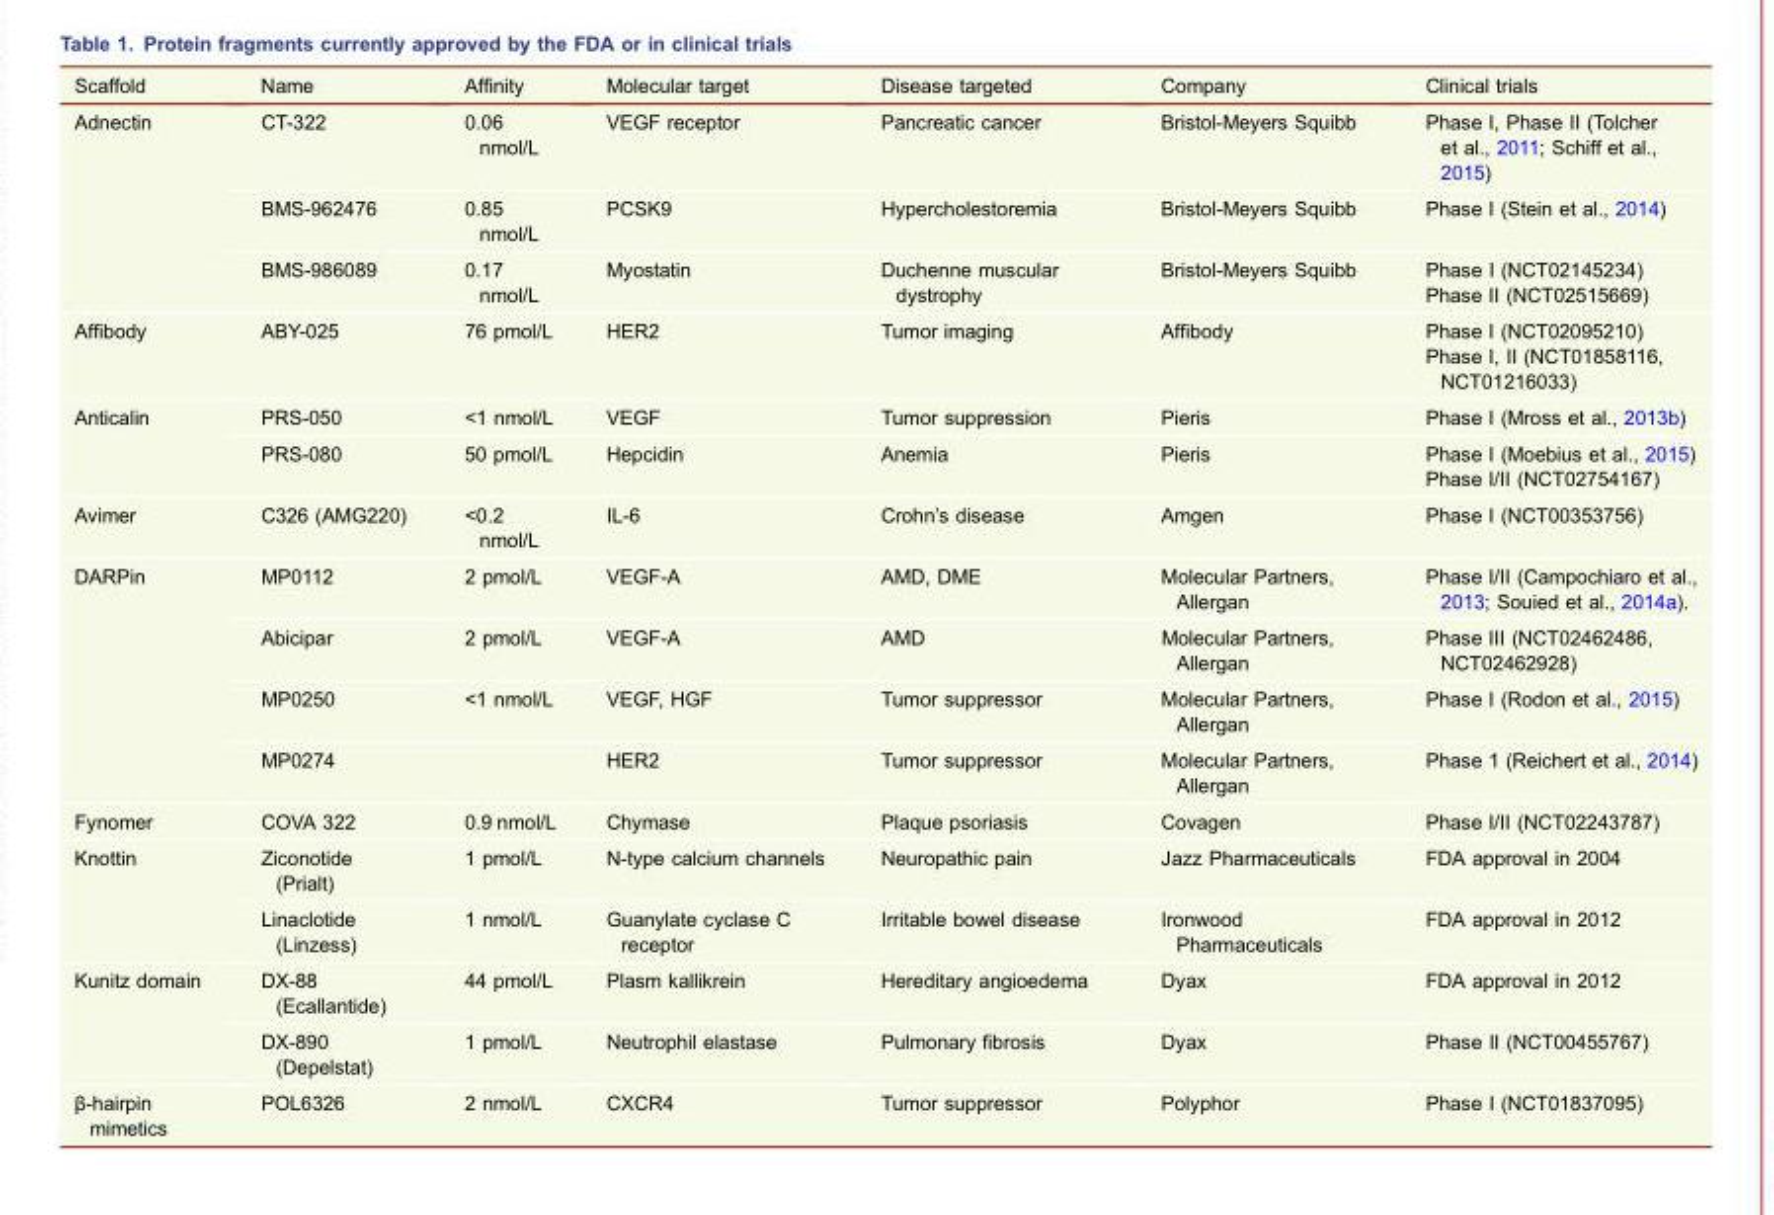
<table><thead><tr><td>Scaffold</td><td>Name</td><td>Affinity</td><td>Molecular target</td><td>Disease targeted</td><td>Company</td><td>Clinical trials</td></tr></thead><tbody><tr><td rowspan="3">Adnectin</td><td>CT-322</td><td>0.06 nmol/L</td><td>VEGF receptor</td><td>Pancreatic cancer</td><td>Bristol-Meyers Squibb</td><td>Phase I, Phase II (Tolcher et al., 2011; Schiff et al., 2015)</td></tr><tr><td>BMS-962476</td><td>0.85 nmol/L</td><td>PCSK9</td><td>Hypercholestoremia</td><td>Bristol-Meyers Squibb</td><td>Phase I (Stein et al., 2014)</td></tr><tr><td>BMS-986089</td><td>0.17 nmol/L</td><td>Myostatin</td><td>Duchenne muscular dystrophy</td><td>Bristol-Meyers Squibb</td><td>Phase I (NCT02145234) Phase II (NCT02515669)</td></tr><tr><td>Affibody</td><td>ABY-025</td><td>76 pmol/L</td><td>HER2</td><td>Tumor imaging</td><td>Affibody</td><td>Phase I (NCT02095210) Phase I, II (NCT01858116, NCT01216033)</td></tr><tr><td rowspan="2">Anticalin</td><td>PRS-050</td><td>&lt;1 nmol/L</td><td>VEGF</td><td>Tumor suppression</td><td>Pieris</td><td>Phase I (Mross et al., 2013b)</td></tr><tr><td>PRS-080</td><td>50 pmol/L</td><td>Hepcidin</td><td>Anemia</td><td>Pieris</td><td>Phase I (Moebius et al., 2015) Phase I/II (NCT02754167)</td></tr><tr><td>Avimer</td><td>C326 (AMG220)</td><td>&lt;0.2 nmol/L</td><td>IL-6</td><td>Crohn’s disease</td><td>Amgen</td><td>Phase I (NCT00353756)</td></tr><tr><td rowspan="4">DARPin</td><td>MP0112</td><td>2 pmol/L</td><td>VEGF-A</td><td>AMD, DME</td><td>Molecular Partners, Allergan</td><td>Phase I/II (Campochiaro et al., 2013; Souied et al., 2014a).</td></tr><tr><td>Abicipar</td><td>2 pmol/L</td><td>VEGF-A</td><td>AMD</td><td>Molecular Partners, Allergan</td><td>Phase III (NCT02462486, NCT02462928)</td></tr><tr><td>MP0250</td><td>&lt;1 nmol/L</td><td>VEGF, HGF</td><td>Tumor suppressor</td><td>Molecular Partners, Allergan</td><td>Phase I (Rodon et al., 2015)</td></tr><tr><td>MP0274</td><td></td><td>HER2</td><td>Tumor suppressor</td><td>Molecular Partners, Allergan</td><td>Phase 1 (Reichert et al., 2014)</td></tr><tr><td>Fynomer</td><td>COVA 322</td><td>0.9 nmol/L</td><td>Chymase</td><td>Plaque psoriasis</td><td>Covagen</td><td>Phase I/II (NCT02243787)</td></tr><tr><td rowspan="2">Knottin</td><td>Ziconotide (Prialt)</td><td>1 pmol/L</td><td>N-type calcium channels</td><td>Neuropathic pain</td><td>Jazz Pharmaceuticals</td><td>FDA approval in 2004</td></tr><tr><td>Linaclotide (Linzess)</td><td>1 nmol/L</td><td>Guanylate cyclase C receptor</td><td>Irritable bowel disease</td><td>Ironwood Pharmaceuticals</td><td>FDA approval in 2012</td></tr><tr><td rowspan="2">Kunitz domain</td><td>DX-88 (Ecallantide)</td><td>44 pmol/L</td><td>Plasm kallikrein</td><td>Hereditary angioedema</td><td>Dyax</td><td>FDA approval in 2012</td></tr><tr><td>DX-890 (Depelstat)</td><td>1 pmol/L</td><td>Neutrophil elastase</td><td>Pulmonary fibrosis</td><td>Dyax</td><td>Phase II (NCT00455767)</td></tr><tr><td>β-hairpin mimetics</td><td>POL6326</td><td>2 nmol/L</td><td>CXCR4</td><td>Tumor suppressor</td><td>Polyphor</td><td>Phase I (NCT01837095)</td></tr></tbody></table>